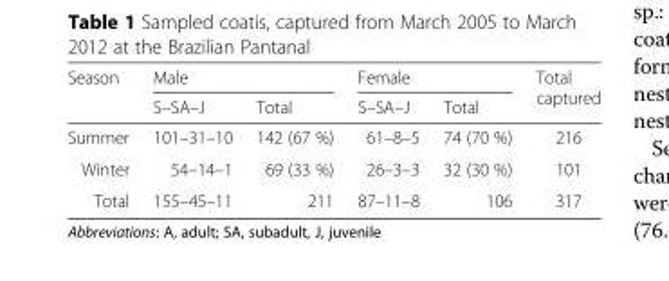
<table><thead><tr><td rowspan="2">Season</td><td colspan="2">Male</td><td colspan="2">Female</td><td rowspan="2">Total captured</td></tr><tr><td>S–SA–J</td><td>Total</td><td>S–SA–J</td><td>Total</td></tr></thead><tbody><tr><td>Summer</td><td>101–31–10</td><td>142 (67 %)</td><td>61–8–5</td><td>74 (70 %)</td><td>216</td></tr><tr><td>Winter</td><td>54–14–1</td><td>69 (33 %)</td><td>26–3–3</td><td>32 (30 %)</td><td>101</td></tr><tr><td>Total</td><td>155–45–11</td><td>211</td><td>87–11–8</td><td>106</td><td>317</td></tr></tbody></table>